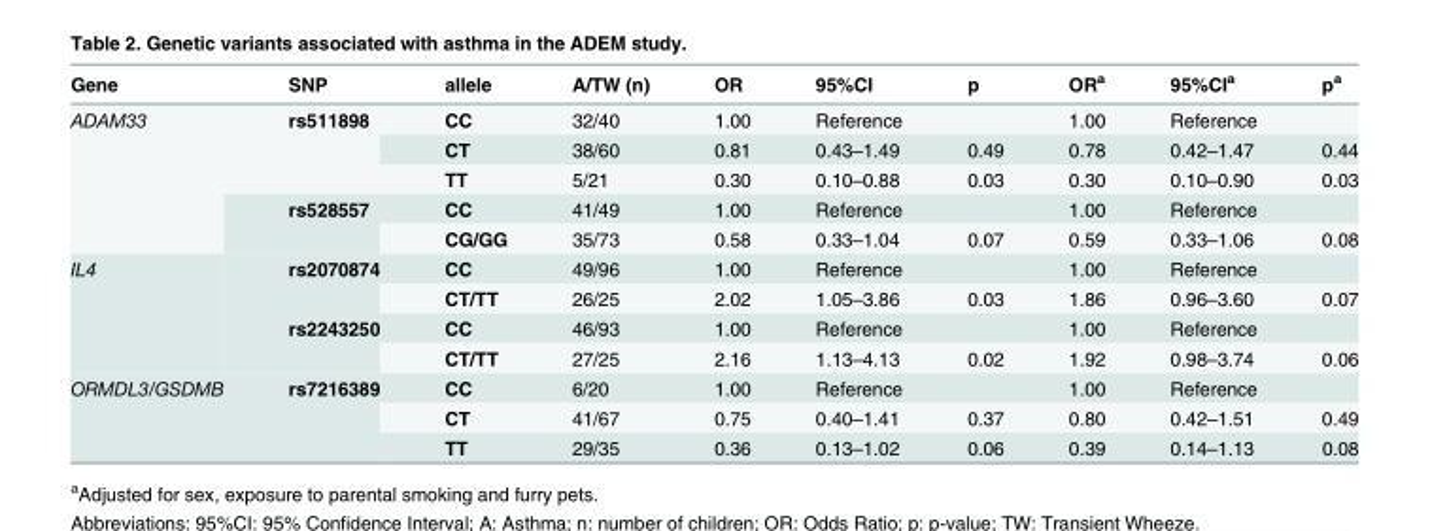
<table><thead><tr><td>Gene</td><td>SNP</td><td>allele</td><td>A/TW (n)</td><td>OR</td><td>95%CI</td><td>p</td><td>OR<sup>a</sup></td><td>95%CI<sup>a</sup></td><td>p<sup>a</sup></td></tr></thead><tbody><tr><td rowspan="5">ADAM33</td><td rowspan="3">rs511898</td><td>CC</td><td>32/40</td><td>1.00</td><td>Reference</td><td></td><td>1.00</td><td>Reference</td><td></td></tr><tr><td>CT</td><td>38/60</td><td>0.81</td><td>0.43–1.49</td><td>0.49</td><td>0.78</td><td>0.42–1.47</td><td>0.44</td></tr><tr><td>TT</td><td>5/21</td><td>0.30</td><td>0.10–0.88</td><td>0.03</td><td>0.30</td><td>0.10–0.90</td><td>0.03</td></tr><tr><td rowspan="2">rs528557</td><td>CC</td><td>41/49</td><td>1.00</td><td>Reference</td><td></td><td>1.00</td><td>Reference</td><td></td></tr><tr><td>CG/GG</td><td>35/73</td><td>0.58</td><td>0.33–1.04</td><td>0.07</td><td>0.59</td><td>0.33–1.06</td><td>0.08</td></tr><tr><td rowspan="4">IL4</td><td rowspan="2">rs2070874</td><td>CC</td><td>49/96</td><td>1.00</td><td>Reference</td><td></td><td>1.00</td><td>Reference</td><td></td></tr><tr><td>CT/TT</td><td>26/25</td><td>2.02</td><td>1.05–3.86</td><td>0.03</td><td>1.86</td><td>0.96–3.60</td><td>0.07</td></tr><tr><td rowspan="2">rs2243250</td><td>CC</td><td>46/93</td><td>1.00</td><td>Reference</td><td></td><td>1.00</td><td>Reference</td><td></td></tr><tr><td>CT/TT</td><td>27/25</td><td>2.16</td><td>1.13–4.13</td><td>0.02</td><td>1.92</td><td>0.98–3.74</td><td>0.06</td></tr><tr><td rowspan="3">ORMDL3/GSDMB</td><td rowspan="3">rs7216389</td><td>CC</td><td>6/20</td><td>1.00</td><td>Reference</td><td></td><td>1.00</td><td>Reference</td><td></td></tr><tr><td>CT</td><td>41/67</td><td>0.75</td><td>0.40–1.41</td><td>0.37</td><td>0.80</td><td>0.42–1.51</td><td>0.49</td></tr><tr><td>TT</td><td>29/35</td><td>0.36</td><td>0.13–1.02</td><td>0.06</td><td>0.39</td><td>0.14–1.13</td><td>0.08</td></tr></tbody></table>